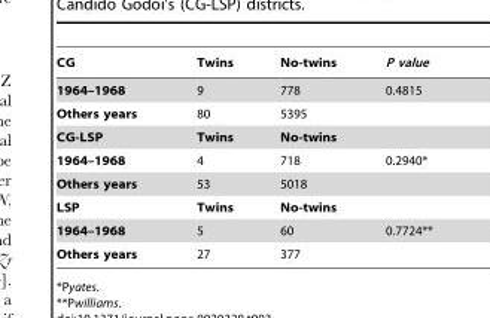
<table><thead><tr><td>CG</td><td>Twins</td><td>No-twins</td><td>P value</td></tr></thead><tbody><tr><td>1964–1968</td><td>9</td><td>778</td><td>0.4815</td></tr><tr><td>Others years</td><td>80</td><td>5395</td><td></td></tr><tr><td>CG-LSP</td><td>Twins</td><td>No-twins</td><td></td></tr><tr><td>1964–1968</td><td>4</td><td>718</td><td>0.2940*</td></tr><tr><td>Others years</td><td>53</td><td>5018</td><td></td></tr><tr><td>LSP</td><td>Twins</td><td>No-twins</td><td></td></tr><tr><td>1964–1968</td><td>5</td><td>60</td><td>0.7724**</td></tr><tr><td>Others years</td><td>27</td><td>377</td><td></td></tr></tbody></table>